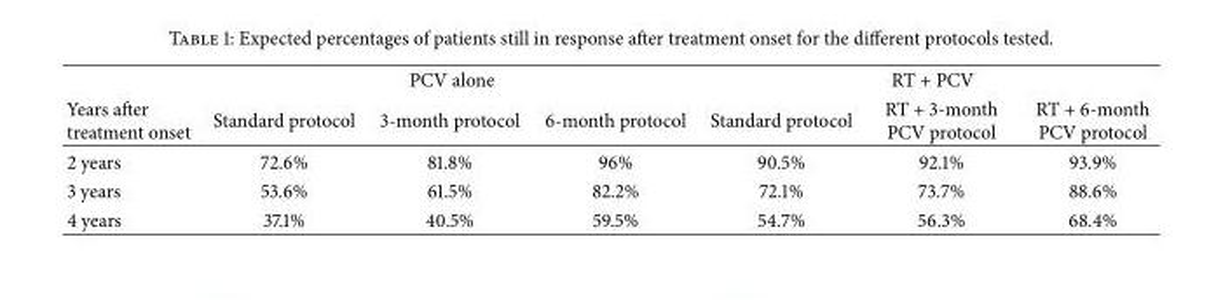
<table><thead><tr><td rowspan="2">Years after treatment onset</td><td colspan="3">PCV alone</td><td colspan="3">RT + PCV</td></tr><tr><td>Standard protocol</td><td>3-month protocol</td><td>6-month protocol</td><td>Standard protocol</td><td>RT + 3-month PCV protocol</td><td>RT + 6-month PCV protocol</td></tr></thead><tbody><tr><td>2 years</td><td>72.6%</td><td>81.8%</td><td>96%</td><td>90.5%</td><td>92.1%</td><td>93.9%</td></tr><tr><td>3 years</td><td>53.6%</td><td>61.5%</td><td>82.2%</td><td>72.1%</td><td>73.7%</td><td>88.6%</td></tr><tr><td>4 years</td><td>37.1%</td><td>40.5%</td><td>59.5%</td><td>54.7%</td><td>56.3%</td><td>68.4%</td></tr></tbody></table>